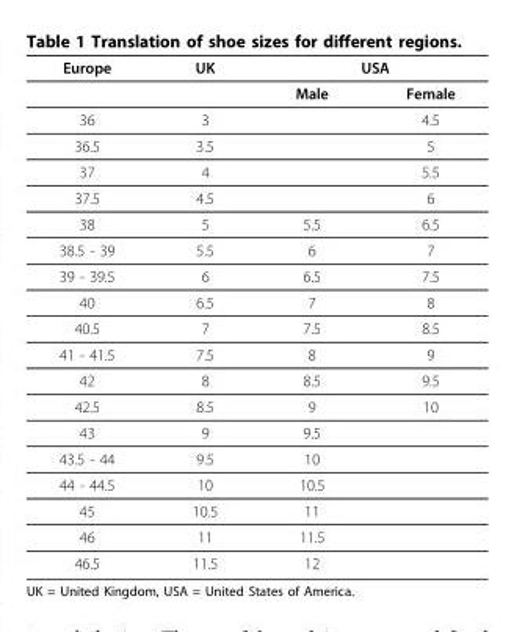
<table><thead><tr><td rowspan="2">Europe</td><td rowspan="2">UK</td><td colspan="2">USA</td></tr><tr><td>Male</td><td>Female</td></tr></thead><tbody><tr><td>36</td><td>3</td><td></td><td>4.5</td></tr><tr><td>36.5</td><td>3.5</td><td></td><td>5</td></tr><tr><td>37</td><td>4</td><td></td><td>5.5</td></tr><tr><td>37.5</td><td>4.5</td><td></td><td>6</td></tr><tr><td>38</td><td>5</td><td>5.5</td><td>6.5</td></tr><tr><td>38.5 - 39</td><td>5.5</td><td>6</td><td>7</td></tr><tr><td>39 - 39.5</td><td>6</td><td>6.5</td><td>7.5</td></tr><tr><td>40</td><td>6.5</td><td>7</td><td>8</td></tr><tr><td>40.5</td><td>7</td><td>7.5</td><td>8.5</td></tr><tr><td>41 - 41.5</td><td>7.5</td><td>8</td><td>9</td></tr><tr><td>42</td><td>8</td><td>8.5</td><td>9.5</td></tr><tr><td>42.5</td><td>8.5</td><td>9</td><td>10</td></tr><tr><td>43</td><td>9</td><td>9.5</td><td></td></tr><tr><td>43.5 - 44</td><td>9.5</td><td>10</td><td></td></tr><tr><td>44 - 44.5</td><td>10</td><td>10.5</td><td></td></tr><tr><td>45</td><td>10.5</td><td>11</td><td></td></tr><tr><td>46</td><td>11</td><td>11.5</td><td></td></tr><tr><td>46.5</td><td>11.5</td><td>12</td><td></td></tr></tbody></table>